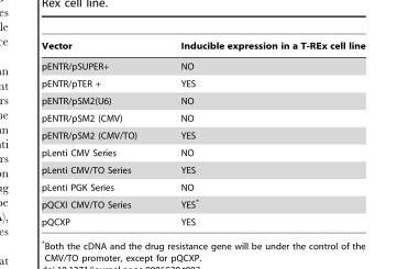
<table><thead><tr><td>Vector</td><td>Inducible expression in a T-REx cell line</td></tr></thead><tbody><tr><td>pENTR/pSUPER+</td><td>NO</td></tr><tr><td>pENTR/pTER +</td><td>YES</td></tr><tr><td>pENTR/pSM2(U6)</td><td>NO</td></tr><tr><td>pENTR/pSM2 (CMV)</td><td>NO</td></tr><tr><td>pENTR/pSM2 (CMV/TO)</td><td>YES</td></tr><tr><td>pLenti CMV Series</td><td>NO</td></tr><tr><td>pLenti CMV/TO Series</td><td>YES</td></tr><tr><td>pLenti PGK Series</td><td>NO</td></tr><tr><td>pQCXI CMV/TO Series</td><td>YES*</td></tr><tr><td>pQCXP</td><td>YES</td></tr></tbody></table>